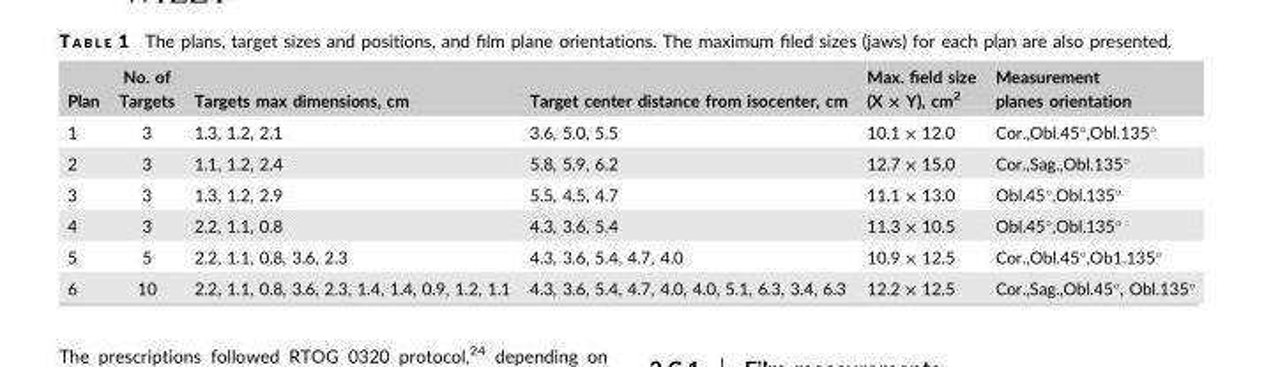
<table><thead><tr><td>Plan</td><td>No. of Targets</td><td>Targets max dimensions, cm</td><td>Target center distance from isocenter, cm</td><td>Max. field size (X × Y), cm<sup>2</sup></td><td>Measurement planes orientation</td></tr></thead><tbody><tr><td>1</td><td>3</td><td>1.3, 1.2, 2.1</td><td>3.6, 5.0, 5.5</td><td>10.1 × 12.0</td><td>Cor.,Obl.45°,Obl.135°</td></tr><tr><td>2</td><td>3</td><td>1.1, 1.2, 2.4</td><td>5.8, 5.9, 6.2</td><td>12.7 × 15.0</td><td>Cor.,Sag.,Obl.135°</td></tr><tr><td>3</td><td>3</td><td>1.3, 1.2, 2.9</td><td>5.5, 4.5, 4.7</td><td>11.1 × 13.0</td><td>Obl.45°,Obl.135°</td></tr><tr><td>4</td><td>3</td><td>2.2, 1.1, 0.8</td><td>4.3, 3.6, 5.4</td><td>11.3 × 10.5</td><td>Obl.45°,Obl.135°</td></tr><tr><td>5</td><td>5</td><td>2.2, 1.1, 0.8, 3.6, 2.3</td><td>4.3, 3.6, 5.4, 4.7, 4.0</td><td>10.9 × 12.5</td><td>Cor.,Obl.45°,Ob1.135°</td></tr><tr><td>6</td><td>10</td><td>2.2, 1.1, 0.8, 3.6, 2.3, 1.4, 1.4, 0.9, 1.2, 1.1</td><td>4.3, 3.6, 5.4, 4.7, 4.0, 4.0, 5.1, 6.3, 3.4, 6.3</td><td>12.2 × 12.5</td><td>Cor.,Sag.,Obl.45°, Obl.135°</td></tr></tbody></table>